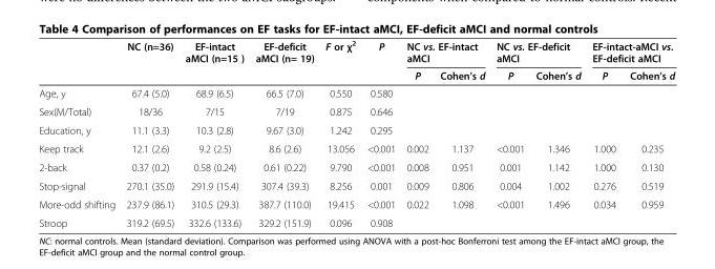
<table><thead><tr><td rowspan="2"></td><td rowspan="2">NC (n=36)</td><td rowspan="2">EF-intact aMCI (n=15 )</td><td rowspan="2">EF-deficit aMCI (n= 19)</td><td rowspan="2">F or χ<sup>2</sup></td><td rowspan="2">P</td><td colspan="2">NC vs. EF-intact aMCI</td><td colspan="2">NC vs. EF-deficit aMCI</td><td colspan="2">EF-intact-aMCI vs. EF-deficit aMCI</td></tr><tr><td>P</td><td>Cohen’s d</td><td>P</td><td>Cohen’s d</td><td>P</td><td>Cohen’s d</td></tr></thead><tbody><tr><td>Age, y</td><td>67.4 (5.0)</td><td>68.9 (6.5)</td><td>66.5 (7.0)</td><td>0.550</td><td>0.580</td><td></td><td></td><td></td><td></td><td></td><td></td></tr><tr><td>Sex(M/Total)</td><td>18/36</td><td>7/15</td><td>7/19</td><td>0.875</td><td>0.646</td><td></td><td></td><td></td><td></td><td></td><td></td></tr><tr><td>Education, y</td><td>11.1 (3.3)</td><td>10.3 (2.8)</td><td>9.67 (3.0)</td><td>1.242</td><td>0.295</td><td></td><td></td><td></td><td></td><td></td><td></td></tr><tr><td>Keep track</td><td>12.1 (2.6)</td><td>9.2 (2.5)</td><td>8.6 (2.6)</td><td>13.056</td><td>&lt;0.001</td><td>0.002</td><td>1.137</td><td>&lt;0.001</td><td>1.346</td><td>1.000</td><td>0.235</td></tr><tr><td>2-back</td><td>0.37 (0.2)</td><td>0.58 (0.24)</td><td>0.61 (0.22)</td><td>9.790</td><td>&lt;0.001</td><td>0.008</td><td>0.951</td><td>0.001</td><td>1.142</td><td>1.000</td><td>0.130</td></tr><tr><td>Stop-signal</td><td>270.1 (35.0)</td><td>291.9 (15.4)</td><td>307.4 (39.3)</td><td>8.256</td><td>0.001</td><td>0.009</td><td>0.806</td><td>0.004</td><td>1.002</td><td>0.276</td><td>0.519</td></tr><tr><td>More-odd shifting</td><td>237.9 (86.1)</td><td>310.5 (29.3)</td><td>387.7 (110.0)</td><td>19.415</td><td>&lt;0.001</td><td>0.022</td><td>1.098</td><td>&lt;0.001</td><td>1.496</td><td>0.034</td><td>0.959</td></tr><tr><td>Stroop</td><td>319.2 (69.5)</td><td>332.6 (133.6)</td><td>329.2 (151.9)</td><td>0.096</td><td>0.908</td><td></td><td></td><td></td><td></td><td></td><td></td></tr></tbody></table>